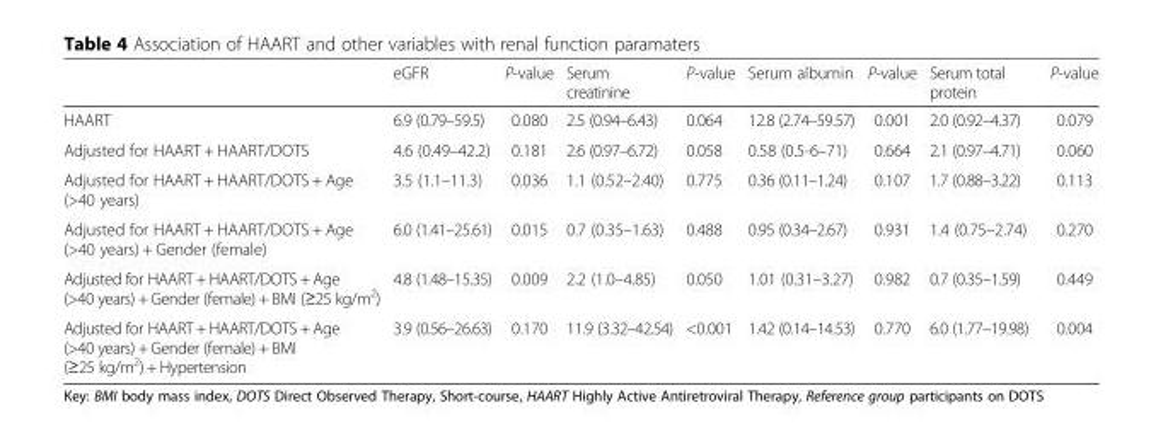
<table><thead><tr><td></td><td>eGFR</td><td>P-value</td><td>Serum creatinine</td><td>P-value</td><td>Serum albumin</td><td>P-value</td><td>Serum total protein</td><td>P-value</td></tr></thead><tbody><tr><td>HAART</td><td>6.9 (0.79–59.5)</td><td>0.080</td><td>2.5 (0.94–6.43)</td><td>0.064</td><td>12.8 (2.74–59.57)</td><td>0.001</td><td>2.0 (0.92–4.37)</td><td>0.079</td></tr><tr><td>Adjusted for HAART + HAART/DOTS</td><td>4.6 (0.49–42.2)</td><td>0.181</td><td>2.6 (0.97–6.72)</td><td>0.058</td><td>0.58 (0.5-6–71)</td><td>0.664</td><td>2.1 (0.97–4.71)</td><td>0.060</td></tr><tr><td>Adjusted for HAART + HAART/DOTS + Age (&gt;40 years)</td><td>3.5 (1.1–11.3)</td><td>0.036</td><td>1.1 (0.52–2.40)</td><td>0.775</td><td>0.36 (0.11–1.24)</td><td>0.107</td><td>1.7 (0.88–3.22)</td><td>0.113</td></tr><tr><td>Adjusted for HAART + HAART/DOTS + Age (&gt;40 years) + Gender (female)</td><td>6.0 (1.41–25.61)</td><td>0.015</td><td>0.7 (0.35–1.63)</td><td>0.488</td><td>0.95 (0.34–2.67)</td><td>0.931</td><td>1.4 (0.75–2.74)</td><td>0.270</td></tr><tr><td>Adjusted for HAART + HAART/DOTS + Age (&gt;40 years) + Gender (female) + BMI (≥25 kg/m<sup>2</sup>)</td><td>4.8 (1.48–15.35)</td><td>0.009</td><td>2.2 (1.0–4.85)</td><td>0.050</td><td>1.01 (0.31–3.27)</td><td>0.982</td><td>0.7 (0.35–1.59)</td><td>0.449</td></tr><tr><td>Adjusted for HAART + HAART/DOTS + Age (&gt;40 years) + Gender (female) + BMI (≥25 kg/m<sup>2</sup>) + Hypertension</td><td>3.9 (0.56–26.63)</td><td>0.170</td><td>11.9 (3.32–42.54)</td><td>&lt;0.001</td><td>1.42 (0.14–14.53)</td><td>0.770</td><td>6.0 (1.77–19.98)</td><td>0.004</td></tr></tbody></table>